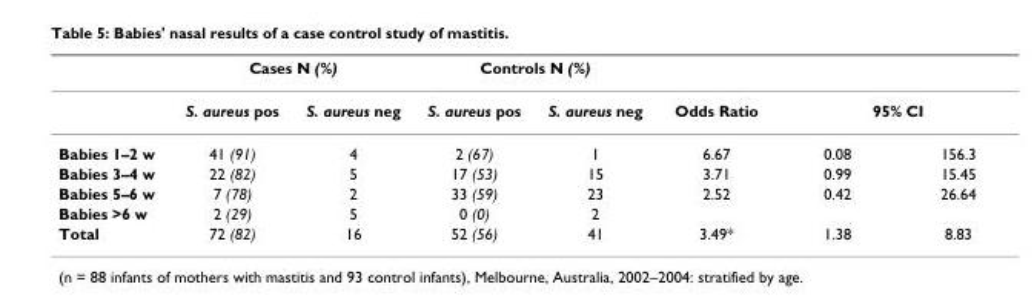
<table><thead><tr><td rowspan="2"></td><td colspan="2">Cases N (%)</td><td colspan="2">Controls N (%)</td><td rowspan="2">Odds Ratio</td><td></td><td></td></tr><tr><td>S. aureus pos</td><td>S. aureus neg</td><td>S. aureus pos</td><td>S. aureus neg</td><td colspan="2">95% CI</td></tr></thead><tbody><tr><td>Babies 1–2 w</td><td>41 (91)</td><td>4</td><td>2 (67)</td><td>1</td><td>6.67</td><td>0.08</td><td>156.3</td></tr><tr><td>Babies 3–4 w</td><td>22 (82)</td><td>5</td><td>17 (53)</td><td>15</td><td>3.71</td><td>0.99</td><td>15.45</td></tr><tr><td>Babies 5–6 w</td><td>7 (78)</td><td>2</td><td>33 (59)</td><td>23</td><td>2.52</td><td>0.42</td><td>26.64</td></tr><tr><td>Babies &gt;6 w</td><td>2 (29)</td><td>5</td><td>0 (0)</td><td>2</td><td></td><td></td><td></td></tr><tr><td>Total</td><td>72 (82)</td><td>16</td><td>52 (56)</td><td>41</td><td>3.49*</td><td>1.38</td><td>8.83</td></tr></tbody></table>